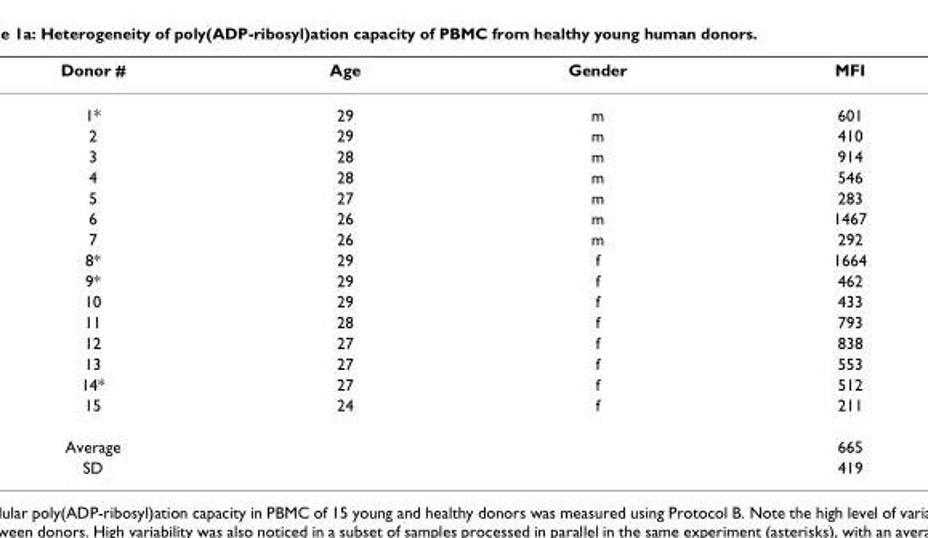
<table><thead><tr><td>Donor #</td><td>Age</td><td>Gender</td><td>MFI</td></tr></thead><tbody><tr><td>1*</td><td>29</td><td>m</td><td>601</td></tr><tr><td>2</td><td>29</td><td>m</td><td>410</td></tr><tr><td>3</td><td>28</td><td>m</td><td>914</td></tr><tr><td>4</td><td>28</td><td>m</td><td>546</td></tr><tr><td>5</td><td>27</td><td>m</td><td>283</td></tr><tr><td>6</td><td>26</td><td>m</td><td>1467</td></tr><tr><td>7</td><td>26</td><td>m</td><td>292</td></tr><tr><td>8*</td><td>29</td><td>f</td><td>1664</td></tr><tr><td>9*</td><td>29</td><td>f</td><td>462</td></tr><tr><td>10</td><td>29</td><td>f</td><td>433</td></tr><tr><td>11</td><td>28</td><td>f</td><td>793</td></tr><tr><td>12</td><td>27</td><td>f</td><td>838</td></tr><tr><td>13</td><td>27</td><td>f</td><td>553</td></tr><tr><td>14*</td><td>27</td><td>f</td><td>512</td></tr><tr><td>15</td><td>24</td><td>f</td><td>211</td></tr><tr><td>Average</td><td></td><td></td><td>665</td></tr><tr><td>SD</td><td></td><td></td><td>419</td></tr></tbody></table>